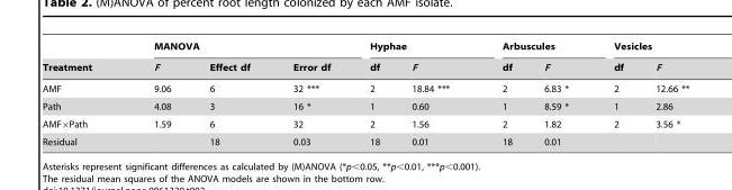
<table><thead><tr><td rowspan="2">Treatment</td><td colspan="3">MANOVA</td><td colspan="2">Hyphae</td><td colspan="2">Arbuscules</td><td colspan="2">Vesicles</td></tr><tr><td>F</td><td>Effect df</td><td>Error df</td><td>df</td><td>F</td><td>df</td><td>F</td><td>df</td><td>F</td></tr></thead><tbody><tr><td>AMF</td><td>9.06</td><td>6</td><td>32 ***</td><td>2</td><td>18.84 ***</td><td>2</td><td>6.83 *</td><td>2</td><td>12.66 **</td></tr><tr><td>Path</td><td>4.08</td><td>3</td><td>16 *</td><td>1</td><td>0.60</td><td>1</td><td>8.59 *</td><td>1</td><td>2.86</td></tr><tr><td>AMF×Path</td><td>1.59</td><td>6</td><td>32</td><td>2</td><td>1.56</td><td>2</td><td>1.82</td><td>2</td><td>3.56 *</td></tr><tr><td>Residual</td><td></td><td>18</td><td>0.03</td><td>18</td><td>0.01</td><td>18</td><td>0.01</td><td></td><td></td></tr></tbody></table>